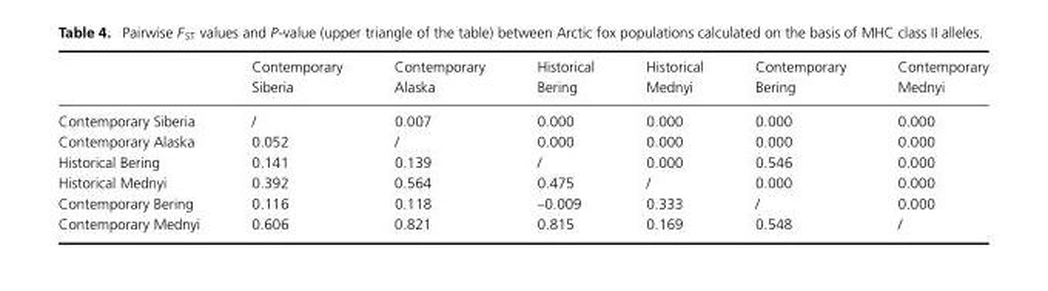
<table><thead><tr><td></td><td>Contemporary Siberia</td><td>Contemporary Alaska</td><td>Historical Bering</td><td>Historical Mednyi</td><td>Contemporary Bering</td><td>Contemporary Mednyi</td></tr></thead><tbody><tr><td>Contemporary Siberia</td><td>/</td><td>0.007</td><td>0.000</td><td>0.000</td><td>0.000</td><td>0.000</td></tr><tr><td>Contemporary Alaska</td><td>0.052</td><td>/</td><td>0.000</td><td>0.000</td><td>0.000</td><td>0.000</td></tr><tr><td>Historical Bering</td><td>0.141</td><td>0.139</td><td>/</td><td>0.000</td><td>0.546</td><td>0.000</td></tr><tr><td>Historical Mednyi</td><td>0.392</td><td>0.564</td><td>0.475</td><td>/</td><td>0.000</td><td>0.000</td></tr><tr><td>Contemporary Bering</td><td>0.116</td><td>0.118</td><td>–0.009</td><td>0.333</td><td>/</td><td>0.000</td></tr><tr><td>Contemporary Mednyi</td><td>0.606</td><td>0.821</td><td>0.815</td><td>0.169</td><td>0.548</td><td>/</td></tr></tbody></table>